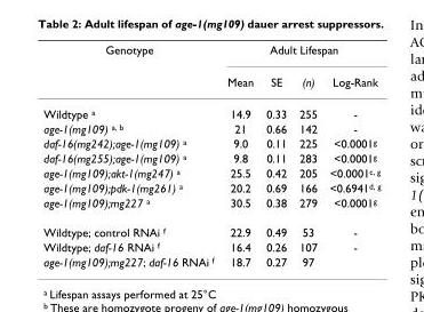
<table><thead><tr><td rowspan="2">Genotype</td><td colspan="4">Adult Lifespan</td></tr><tr><td>Mean</td><td>SE</td><td>(n)</td><td>Log-Rank</td></tr></thead><tbody><tr><td>Wildtype <sup>a</sup></td><td>14.9</td><td>0.33</td><td>255</td><td>-</td></tr><tr><td>age-1(mg109) <sup>a, b</sup></td><td>21</td><td>0.66</td><td>142</td><td>-</td></tr><tr><td>daf-16(mg242);age-1(mg109) <sup>a</sup></td><td>9.0</td><td>0.11</td><td>225</td><td>&lt;0.0001<sup>g</sup></td></tr><tr><td>daf-16(mg255);age-1(mg109) <sup>a</sup></td><td>9.8</td><td>0.11</td><td>283</td><td>&lt;0.0001<sup>g</sup></td></tr><tr><td>age-1(mg109);akt-1(mg247) <sup>a</sup></td><td>25.5</td><td>0.42</td><td>205</td><td>&lt;0.0001<sup>c, g</sup></td></tr><tr><td>age-1(mg109);pdk-1(mg261) <sup>a</sup></td><td>20.2</td><td>0.69</td><td>166</td><td>&lt;0.6941<sup>d, g</sup></td></tr><tr><td>age-1(mg109);mg227 <sup>a</sup></td><td>30.5</td><td>0.38</td><td>279</td><td>&lt;0.0001<sup>g</sup></td></tr><tr><td>Wildtype; control RNAi <sup>f</sup></td><td>22.9</td><td>0.49</td><td>53</td><td>-</td></tr><tr><td>Wildtype; daf-16 RNAi <sup>f</sup></td><td>16.4</td><td>0.26</td><td>107</td><td>-</td></tr><tr><td>age-1(mg109);mg227; daf-16 RNAi <sup>f</sup></td><td>18.7</td><td>0.27</td><td>97</td><td></td></tr></tbody></table>